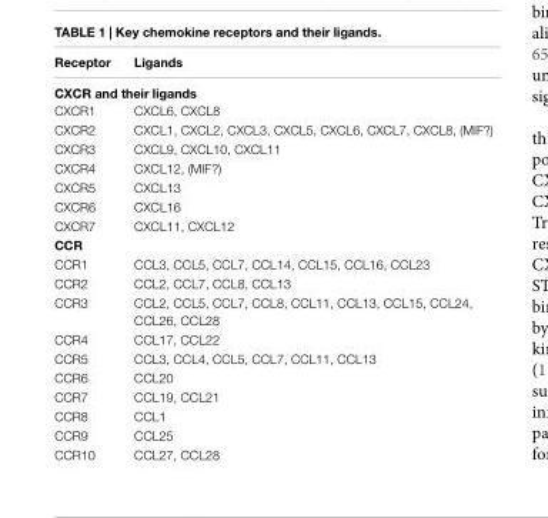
<table><thead><tr><td>Receptor</td><td>Ligands</td></tr></thead><tbody><tr><td colspan="2">CXCR and their ligands</td></tr><tr><td>CXCR1</td><td>CXCL6, CXCL8</td></tr><tr><td>CXCR2</td><td>CXCL1, CXCL2, CXCL3, CXCL5, CXCL6, CXCL7, CXCL8, (MIF?)</td></tr><tr><td>CXCR3</td><td>CXCL9, CXCL10, CXCL11</td></tr><tr><td>CXCR4</td><td>CXCL12, (MIF?)</td></tr><tr><td>CXCR5</td><td>CXCL13</td></tr><tr><td>CXCR6</td><td>CXCL16</td></tr><tr><td>CXCR7</td><td>CXCL11, CXCL12</td></tr><tr><td colspan="2">CCR</td></tr><tr><td>CCR1</td><td>CCL3, CCL5, CCL7, CCL14, CCL15, CCL16, CCL23</td></tr><tr><td>CCR2</td><td>CCL2, CCL7, CCL8, CCL13</td></tr><tr><td>CCR3</td><td>CCL2, CCL5, CCL7, CCL8, CCL11, CCL13, CCL15, CCL24, CCL26, CCL28</td></tr><tr><td>CCR4</td><td>CCL17, CCL22</td></tr><tr><td>CCR5</td><td>CCL3, CCL4, CCL5, CCL7, CCL11, CCL13</td></tr><tr><td>CCR6</td><td>CCL20</td></tr><tr><td>CCR7</td><td>CCL19, CCL21</td></tr><tr><td>CCR8</td><td>CCL1</td></tr><tr><td>CCR9</td><td>CCL25</td></tr><tr><td>CCR10</td><td>CCL27, CCL28</td></tr></tbody></table>